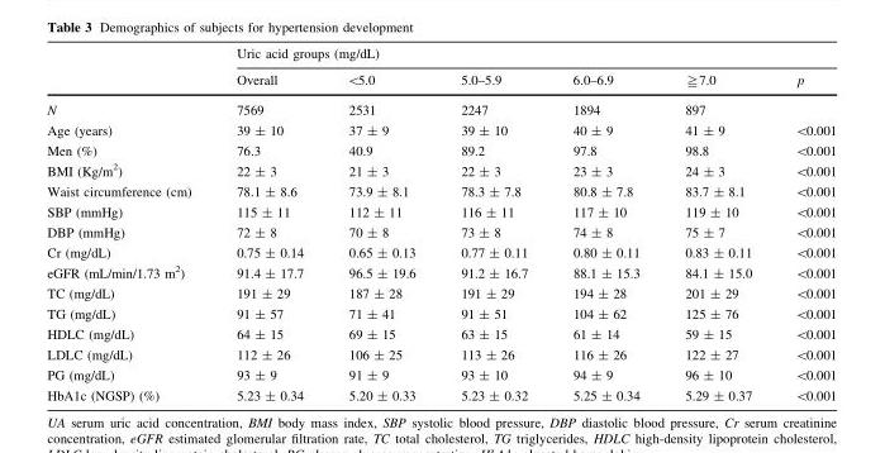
<table><thead><tr><td rowspan="2"></td><td colspan="6">Uric acid groups (mg/dL)</td></tr><tr><td>Overall</td><td>&lt;5.0</td><td>5.0–5.9</td><td>6.0–6.9</td><td>≧7.0</td><td>p</td></tr></thead><tbody><tr><td>N</td><td>7569</td><td>2531</td><td>2247</td><td>1894</td><td>897</td><td></td></tr><tr><td>Age (years)</td><td>39 ± 10</td><td>37 ± 9</td><td>39 ± 10</td><td>40 ± 9</td><td>41 ± 9</td><td>&lt;0.001</td></tr><tr><td>Men (%)</td><td>76.3</td><td>40.9</td><td>89.2</td><td>97.8</td><td>98.8</td><td>&lt;0.001</td></tr><tr><td>BMI (Kg/m<sup>2</sup>)</td><td>22 ± 3</td><td>21 ± 3</td><td>22 ± 3</td><td>23 ± 3</td><td>24 ± 3</td><td>&lt;0.001</td></tr><tr><td>Waist circumference (cm)</td><td>78.1 ± 8.6</td><td>73.9 ± 8.1</td><td>78.3 ± 7.8</td><td>80.8 ± 7.8</td><td>83.7 ± 8.1</td><td>&lt;0.001</td></tr><tr><td>SBP (mmHg)</td><td>115 ± 11</td><td>112 ± 11</td><td>116 ± 11</td><td>117 ± 10</td><td>119 ± 10</td><td>&lt;0.001</td></tr><tr><td>DBP (mmHg)</td><td>72 ± 8</td><td>70 ± 8</td><td>73 ± 8</td><td>74 ± 8</td><td>75 ± 7</td><td>&lt;0.001</td></tr><tr><td>Cr (mg/dL)</td><td>0.75 ± 0.14</td><td>0.65 ± 0.13</td><td>0.77 ± 0.11</td><td>0.80 ± 0.11</td><td>0.83 ± 0.11</td><td>&lt;0.001</td></tr><tr><td>eGFR (mL/min/1.73 m<sup>2</sup>)</td><td>91.4 ± 17.7</td><td>96.5 ± 19.6</td><td>91.2 ± 16.7</td><td>88.1 ± 15.3</td><td>84.1 ± 15.0</td><td>&lt;0.001</td></tr><tr><td>TC (mg/dL)</td><td>191 ± 29</td><td>187 ± 28</td><td>191 ± 29</td><td>194 ± 28</td><td>201 ± 29</td><td>&lt;0.001</td></tr><tr><td>TG (mg/dL)</td><td>91 ± 57</td><td>71 ± 41</td><td>91 ± 51</td><td>104 ± 62</td><td>125 ± 76</td><td>&lt;0.001</td></tr><tr><td>HDLC (mg/dL)</td><td>64 ± 15</td><td>69 ± 15</td><td>63 ± 15</td><td>61 ± 14</td><td>59 ± 15</td><td>&lt;0.001</td></tr><tr><td>LDLC (mg/dL)</td><td>112 ± 26</td><td>106 ± 25</td><td>113 ± 26</td><td>116 ± 26</td><td>122 ± 27</td><td>&lt;0.001</td></tr><tr><td>PG (mg/dL)</td><td>93 ± 9</td><td>91 ± 9</td><td>93 ± 10</td><td>94 ± 9</td><td>96 ± 10</td><td>&lt;0.001</td></tr><tr><td>HbA1c (NGSP) (%)</td><td>5.23 ± 0.34</td><td>5.20 ± 0.33</td><td>5.23 ± 0.32</td><td>5.25 ± 0.34</td><td>5.29 ± 0.37</td><td>&lt;0.001</td></tr></tbody></table>